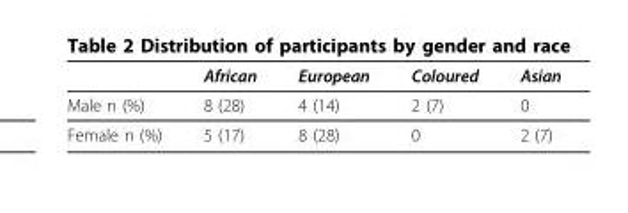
<table><thead><tr><td></td><td>African</td><td>European</td><td>Coloured</td><td>Asian</td></tr></thead><tbody><tr><td>Male n (%)</td><td>8 (28)</td><td>4 (14)</td><td>2 (7)</td><td>0</td></tr><tr><td>Female n (%)</td><td>5 (17)</td><td>8 (28)</td><td>0</td><td>2 (7)</td></tr></tbody></table>